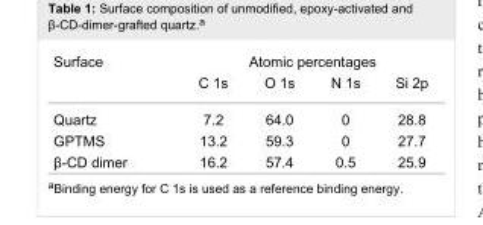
<table><tbody><tr><td rowspan="2">Surface</td><td colspan="4">Atomic percentages</td></tr><tr><td>C 1s</td><td>O 1s</td><td>N 1s</td><td>Si 2p</td></tr><tr><td>Quartz</td><td>7.2</td><td>64.0</td><td>0</td><td>28.8</td></tr><tr><td>GPTMS</td><td>13.2</td><td>59.3</td><td>0</td><td>27.7</td></tr><tr><td>β-CD dimer</td><td>16.2</td><td>57.4</td><td>0.5</td><td>25.9</td></tr></tbody></table>